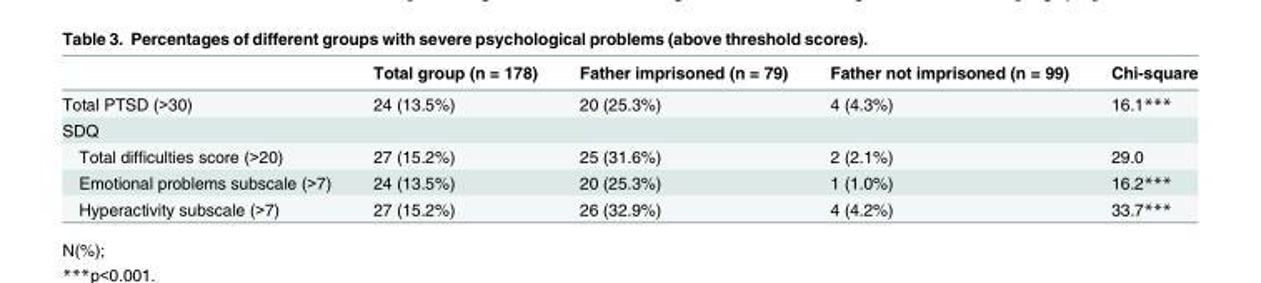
<table><thead><tr><td></td><td>Total group (n = 178)</td><td>Father imprisoned (n = 79)</td><td>Father not imprisoned (n = 99)</td><td>Chi-square</td></tr></thead><tbody><tr><td>Total PTSD (&gt;30)</td><td>24 (13.5%)</td><td>20 (25.3%)</td><td>4 (4.3%)</td><td>16.1***</td></tr><tr><td colspan="5">SDQ</td></tr><tr><td>Total difficulties score (&gt;20)</td><td>27 (15.2%)</td><td>25 (31.6%)</td><td>2 (2.1%)</td><td>29.0</td></tr><tr><td>Emotional problems subscale (&gt;7)</td><td>24 (13.5%)</td><td>20 (25.3%)</td><td>1 (1.0%)</td><td>16.2***</td></tr><tr><td>Hyperactivity subscale (&gt;7)</td><td>27 (15.2%)</td><td>26 (32.9%)</td><td>4 (4.2%)</td><td>33.7***</td></tr></tbody></table>